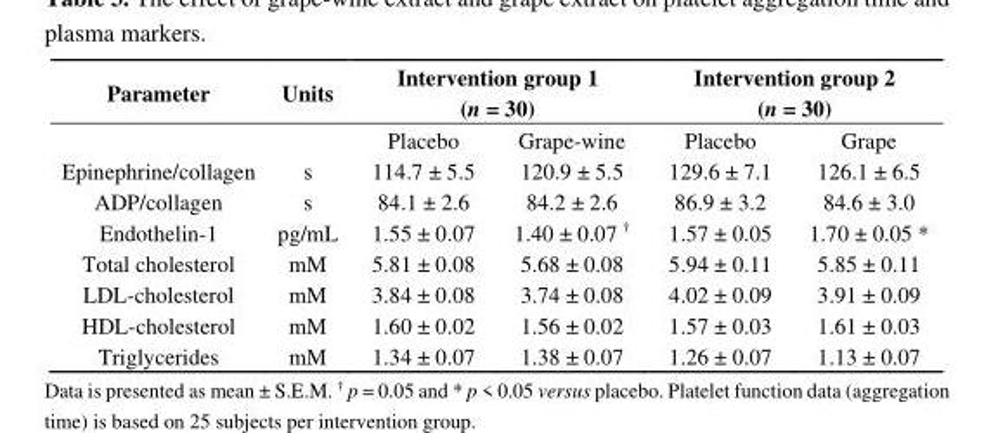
<table><thead><tr><td rowspan="2">Parameter</td><td rowspan="2">Units</td><td colspan="2">Intervention group 1 (n = 30)</td><td colspan="2">Intervention group 2 (n = 30)</td></tr><tr><td>Placebo</td><td>Grape-wine</td><td>Placebo</td><td>Grape</td></tr></thead><tbody><tr><td>Epinephrine/collagen</td><td>s</td><td>114.7 ± 5.5</td><td>120.9 ± 5.5</td><td>129.6 ± 7.1</td><td>126.1 ± 6.5</td></tr><tr><td>ADP/collagen</td><td>s</td><td>84.1 ± 2.6</td><td>84.2 ± 2.6</td><td>86.9 ± 3.2</td><td>84.6 ± 3.0</td></tr><tr><td>Endothelin-1</td><td>pg/mL</td><td>1.55 ± 0.07</td><td>1.40 ± 0.07 <sup>†</sup></td><td>1.57 ± 0.05</td><td>1.70 ± 0.05 *</td></tr><tr><td>Total cholesterol</td><td>mM</td><td>5.81 ± 0.08</td><td>5.68 ± 0.08</td><td>5.94 ± 0.11</td><td>5.85 ± 0.11</td></tr><tr><td>LDL-cholesterol</td><td>mM</td><td>3.84 ± 0.08</td><td>3.74 ± 0.08</td><td>4.02 ± 0.09</td><td>3.91 ± 0.09</td></tr><tr><td>HDL-cholesterol</td><td>mM</td><td>1.60 ± 0.02</td><td>1.56 ± 0.02</td><td>1.57 ± 0.03</td><td>1.61 ± 0.03</td></tr><tr><td>Triglycerides</td><td>mM</td><td>1.34 ± 0.07</td><td>1.38 ± 0.07</td><td>1.26 ± 0.07</td><td>1.13 ± 0.07</td></tr></tbody></table>